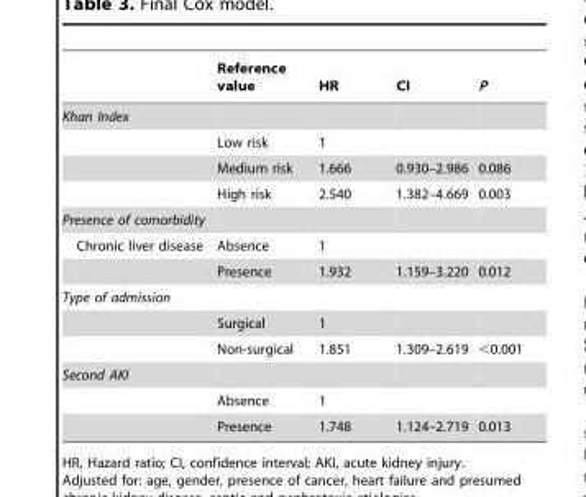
<table><thead><tr><td></td><td>Reference value</td><td>HR</td><td>CI</td><td>P</td></tr></thead><tbody><tr><td colspan="5">Khan Index</td></tr><tr><td></td><td>Low risk</td><td>1</td><td></td><td></td></tr><tr><td></td><td>Medium risk</td><td>1.666</td><td>0.930–2.986</td><td>0.086</td></tr><tr><td></td><td>High risk</td><td>2.540</td><td>1.382–4.669</td><td>0.003</td></tr><tr><td colspan="5">Presence of comorbidity</td></tr><tr><td rowspan="2">Chronic liver disease</td><td>Absence</td><td>1</td><td></td><td></td></tr><tr><td>Presence</td><td>1.932</td><td>1.159–3.220</td><td>0.012</td></tr><tr><td colspan="5">Type of admission</td></tr><tr><td></td><td>Surgical</td><td>1</td><td></td><td></td></tr><tr><td></td><td>Non-surgical</td><td>1.851</td><td>1.309–2.619</td><td>&lt;0.001</td></tr><tr><td colspan="5">Second AKI</td></tr><tr><td></td><td>Absence</td><td>1</td><td></td><td></td></tr><tr><td></td><td>Presence</td><td>1.748</td><td>1.124–2.719</td><td>0.013</td></tr></tbody></table>